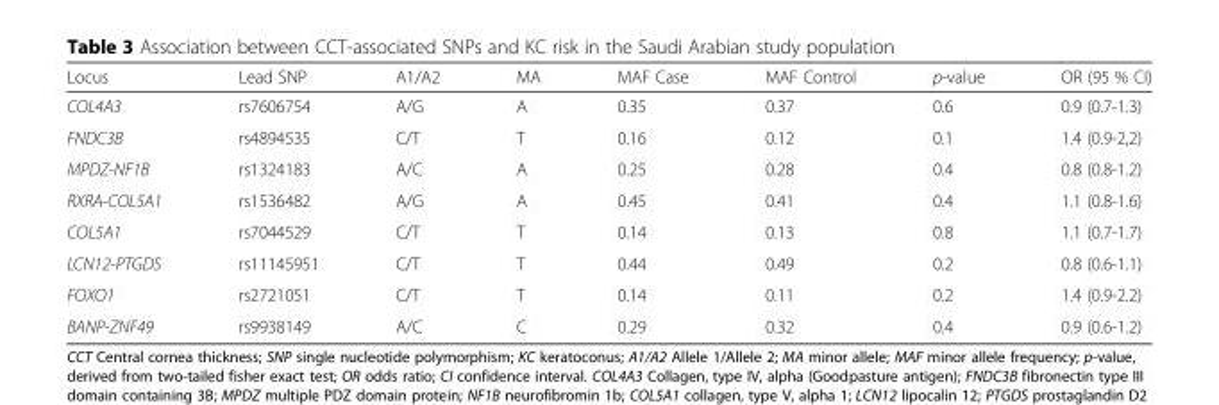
<table><thead><tr><td>Locus</td><td>Lead SNP</td><td>A1/A2</td><td>MA</td><td>MAF Case</td><td>MAF Control</td><td>p-value</td><td>OR (95 % CI)</td></tr></thead><tbody><tr><td>COL4A3</td><td>rs7606754</td><td>A/G</td><td>A</td><td>0.35</td><td>0.37</td><td>0.6</td><td>0.9 (0.7-1.3)</td></tr><tr><td>FNDC3B</td><td>rs4894535</td><td>C/T</td><td>T</td><td>0.16</td><td>0.12</td><td>0.1</td><td>1.4 (0.9-2,2)</td></tr><tr><td>MPDZ-NF1B</td><td>rs1324183</td><td>A/C</td><td>A</td><td>0.25</td><td>0.28</td><td>0.4</td><td>0.8 (0.8-1.2)</td></tr><tr><td>RXRA-COL5A1</td><td>rs1536482</td><td>A/G</td><td>A</td><td>0.45</td><td>0.41</td><td>0.4</td><td>1.1 (0.8-1.6)</td></tr><tr><td>COL5A1</td><td>rs7044529</td><td>C/T</td><td>T</td><td>0.14</td><td>0.13</td><td>0.8</td><td>1.1 (0.7-1.7)</td></tr><tr><td>LCN12-PTGDS</td><td>rs11145951</td><td>C/T</td><td>T</td><td>0.44</td><td>0.49</td><td>0.2</td><td>0.8 (0.6-1.1)</td></tr><tr><td>FOXO1</td><td>rs2721051</td><td>C/T</td><td>T</td><td>0.14</td><td>0.11</td><td>0.2</td><td>1.4 (0.9-2.2)</td></tr><tr><td>BANP-ZNF49</td><td>rs9938149</td><td>A/C</td><td>C</td><td>0.29</td><td>0.32</td><td>0.4</td><td>0.9 (0.6-1.2)</td></tr></tbody></table>